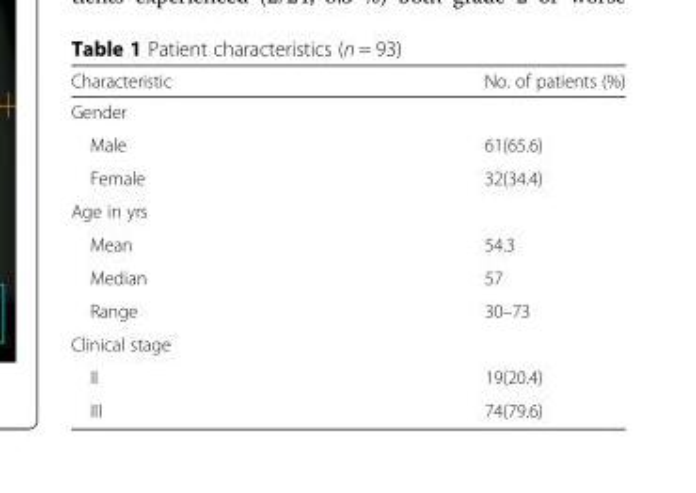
<table><thead><tr><td>Characteristic</td><td>No. of patients (%)</td></tr></thead><tbody><tr><td colspan="2">Gender</td></tr><tr><td>Male</td><td>61(65.6)</td></tr><tr><td>Female</td><td>32(34.4)</td></tr><tr><td colspan="2">Age in yrs</td></tr><tr><td>Mean</td><td>54.3</td></tr><tr><td>Median</td><td>57</td></tr><tr><td>Range</td><td>30–73</td></tr><tr><td colspan="2">Clinical stage</td></tr><tr><td>II</td><td>19(20.4)</td></tr><tr><td>III</td><td>74(79.6)</td></tr></tbody></table>